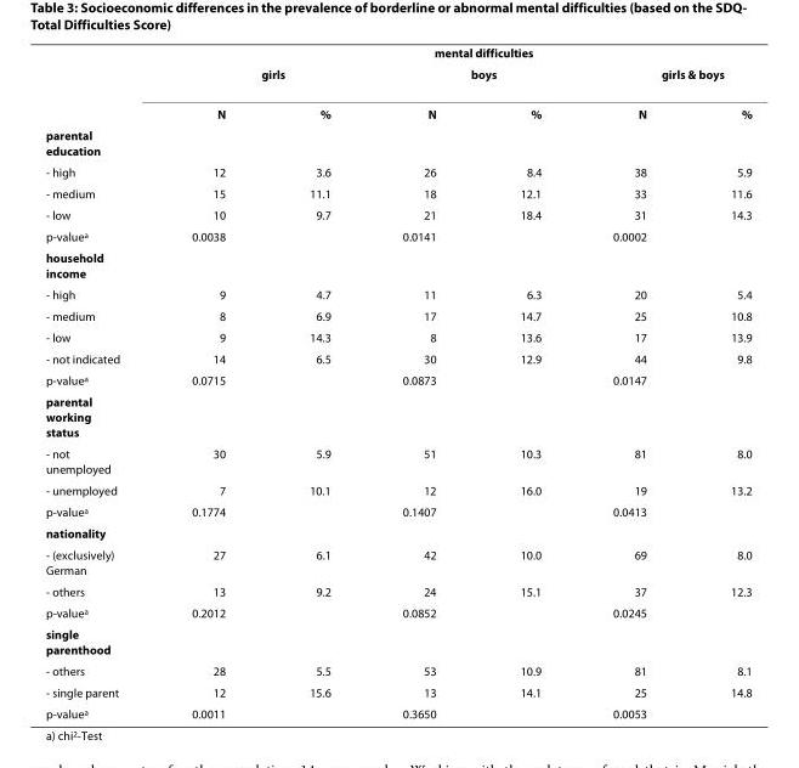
<table><thead><tr><td rowspan="3"></td><td colspan="6">mental difficulties</td></tr><tr><td colspan="2">girls</td><td colspan="2">boys</td><td colspan="2">girls &amp; boys</td></tr><tr><td>N</td><td>%</td><td>N</td><td>%</td><td>N</td><td>%</td></tr></thead><tbody><tr><td colspan="7">parental education</td></tr><tr><td>- high</td><td>12</td><td>3.6</td><td>26</td><td>8.4</td><td>38</td><td>5.9</td></tr><tr><td>- medium</td><td>15</td><td>11.1</td><td>18</td><td>12.1</td><td>33</td><td>11.6</td></tr><tr><td>- low</td><td>10</td><td>9.7</td><td>21</td><td>18.4</td><td>31</td><td>14.3</td></tr><tr><td>p-value<sup>a</sup></td><td>0.0038</td><td></td><td>0.0141</td><td></td><td>0.0002</td><td></td></tr><tr><td colspan="7">household income</td></tr><tr><td>- high</td><td>9</td><td>4.7</td><td>11</td><td>6.3</td><td>20</td><td>5.4</td></tr><tr><td>- medium</td><td>8</td><td>6.9</td><td>17</td><td>14.7</td><td>25</td><td>10.8</td></tr><tr><td>- low</td><td>9</td><td>14.3</td><td>8</td><td>13.6</td><td>17</td><td>13.9</td></tr><tr><td>- not indicated</td><td>14</td><td>6.5</td><td>30</td><td>12.9</td><td>44</td><td>9.8</td></tr><tr><td>p-value<sup>a</sup></td><td>0.0715</td><td></td><td>0.0873</td><td></td><td>0.0147</td><td></td></tr><tr><td colspan="7">parental working status</td></tr><tr><td>- not unemployed</td><td>30</td><td>5.9</td><td>51</td><td>10.3</td><td>81</td><td>8.0</td></tr><tr><td>- unemployed</td><td>7</td><td>10.1</td><td>12</td><td>16.0</td><td>19</td><td>13.2</td></tr><tr><td>p-value<sup>a</sup></td><td>0.1774</td><td></td><td>0.1407</td><td></td><td>0.0413</td><td></td></tr><tr><td colspan="7">nationality</td></tr><tr><td>- (exclusively) German</td><td>27</td><td>6.1</td><td>42</td><td>10.0</td><td>69</td><td>8.0</td></tr><tr><td>- others</td><td>13</td><td>9.2</td><td>24</td><td>15.1</td><td>37</td><td>12.3</td></tr><tr><td>p-value<sup>a</sup></td><td>0.2012</td><td></td><td>0.0852</td><td></td><td>0.0245</td><td></td></tr><tr><td colspan="7">single parenthood</td></tr><tr><td>- others</td><td>28</td><td>5.5</td><td>53</td><td>10.9</td><td>81</td><td>8.1</td></tr><tr><td>- single parent</td><td>12</td><td>15.6</td><td>13</td><td>14.1</td><td>25</td><td>14.8</td></tr><tr><td>p-value<sup>a</sup></td><td>0.0011</td><td></td><td>0.3650</td><td></td><td>0.0053</td><td></td></tr></tbody></table>